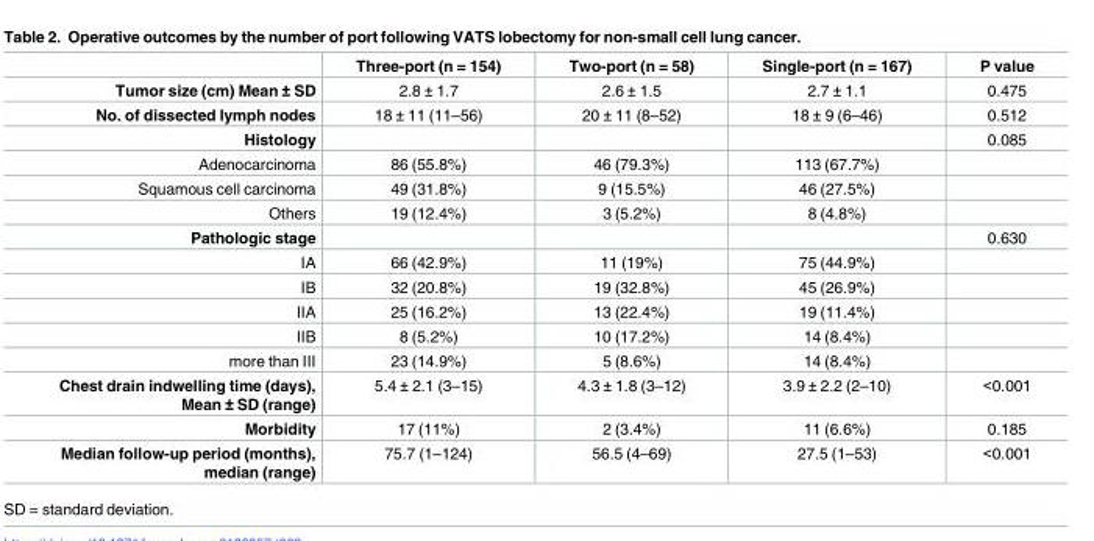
<table><thead><tr><td></td><td>Three-port (n = 154)</td><td>Two-port (n = 58)</td><td>Single-port (n = 167)</td><td>P value</td></tr></thead><tbody><tr><td>Tumor size (cm) Mean ± SD</td><td>2.8 ± 1.7</td><td>2.6 ± 1.5</td><td>2.7 ± 1.1</td><td>0.475</td></tr><tr><td>No. of dissected lymph nodes</td><td>18 ± 11 (11–56)</td><td>20 ± 11 (8–52)</td><td>18 ± 9 (6–46)</td><td>0.512</td></tr><tr><td>Histology</td><td></td><td></td><td></td><td>0.085</td></tr><tr><td>Adenocarcinoma</td><td>86 (55.8%)</td><td>46 (79.3%)</td><td>113 (67.7%)</td><td></td></tr><tr><td>Squamous cell carcinoma</td><td>49 (31.8%)</td><td>9 (15.5%)</td><td>46 (27.5%)</td><td></td></tr><tr><td>Others</td><td>19 (12.4%)</td><td>3 (5.2%)</td><td>8 (4.8%)</td><td></td></tr><tr><td>Pathologic stage</td><td></td><td></td><td></td><td>0.630</td></tr><tr><td>IA</td><td>66 (42.9%)</td><td>11 (19%)</td><td>75 (44.9%)</td><td></td></tr><tr><td>IB</td><td>32 (20.8%)</td><td>19 (32.8%)</td><td>45 (26.9%)</td><td></td></tr><tr><td>IIA</td><td>25 (16.2%)</td><td>13 (22.4%)</td><td>19 (11.4%)</td><td></td></tr><tr><td>IIB</td><td>8 (5.2%)</td><td>10 (17.2%)</td><td>14 (8.4%)</td><td></td></tr><tr><td>more than III</td><td>23 (14.9%)</td><td>5 (8.6%)</td><td>14 (8.4%)</td><td></td></tr><tr><td>Chest drain indwelling time (days), Mean ± SD (range)</td><td>5.4 ± 2.1 (3–15)</td><td>4.3 ± 1.8 (3–12)</td><td>3.9 ± 2.2 (2–10)</td><td>&lt;0.001</td></tr><tr><td>Morbidity</td><td>17 (11%)</td><td>2 (3.4%)</td><td>11 (6.6%)</td><td>0.185</td></tr><tr><td>Median follow-up period (months), median (range)</td><td>75.7 (1–124)</td><td>56.5 (4–69)</td><td>27.5 (1–53)</td><td>&lt;0.001</td></tr></tbody></table>